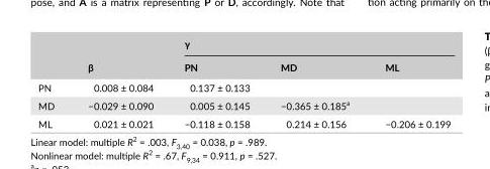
<table><thead><tr><td rowspan="2"></td><td rowspan="2">β</td><td colspan="3">γ</td></tr><tr><td>PN</td><td>MD</td><td>ML</td></tr></thead><tbody><tr><td>PN</td><td>0.008 ± 0.084</td><td>0.137 ± 0.133</td><td></td><td></td></tr><tr><td>MD</td><td>−0.029 ± 0.090</td><td>0.005 ± 0.145</td><td>−0.365 ± 0.185<sup>a</sup></td><td></td></tr><tr><td>ML</td><td>0.021 ± 0.021</td><td>−0.118 ± 0.158</td><td>0.214 ± 0.156</td><td>−0.206 ± 0.199</td></tr></tbody></table>